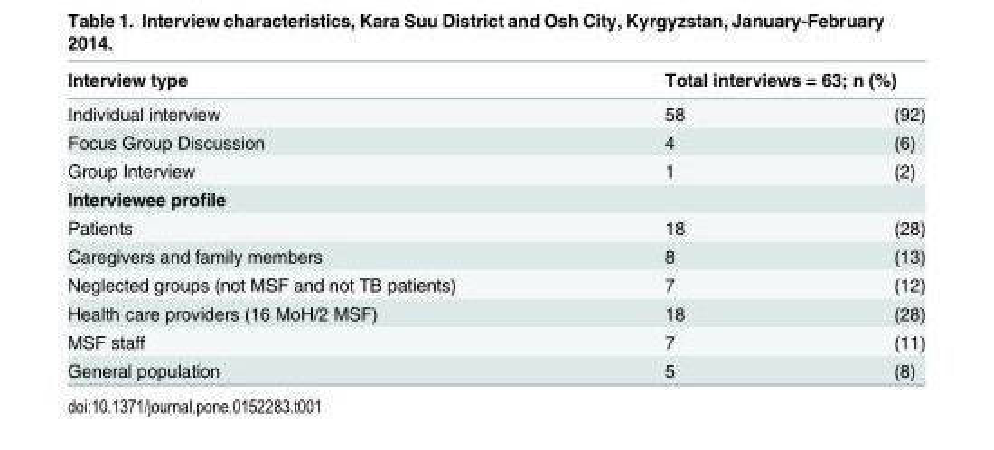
<table><thead><tr><td rowspan="2">Interview type Individual interview</td><td colspan="2">Total interviews = 63; n (%)</td></tr><tr><td>58</td><td>(92)</td></tr></thead><tbody><tr><td>Focus Group Discussion</td><td>4</td><td>(6)</td></tr><tr><td>Group Interview</td><td>1</td><td>(2)</td></tr><tr><td colspan="3">Interviewee profile</td></tr><tr><td>Patients</td><td>18</td><td>(28)</td></tr><tr><td>Caregivers and family members</td><td>8</td><td>(13)</td></tr><tr><td>Neglected groups (not MSF and not TB patients)</td><td>7</td><td>(12)</td></tr><tr><td>Health care providers (16 MoH/2 MSF)</td><td>18</td><td>(28)</td></tr><tr><td>MSF staff</td><td>7</td><td>(11)</td></tr><tr><td>General population</td><td>5</td><td>(8)</td></tr></tbody></table>